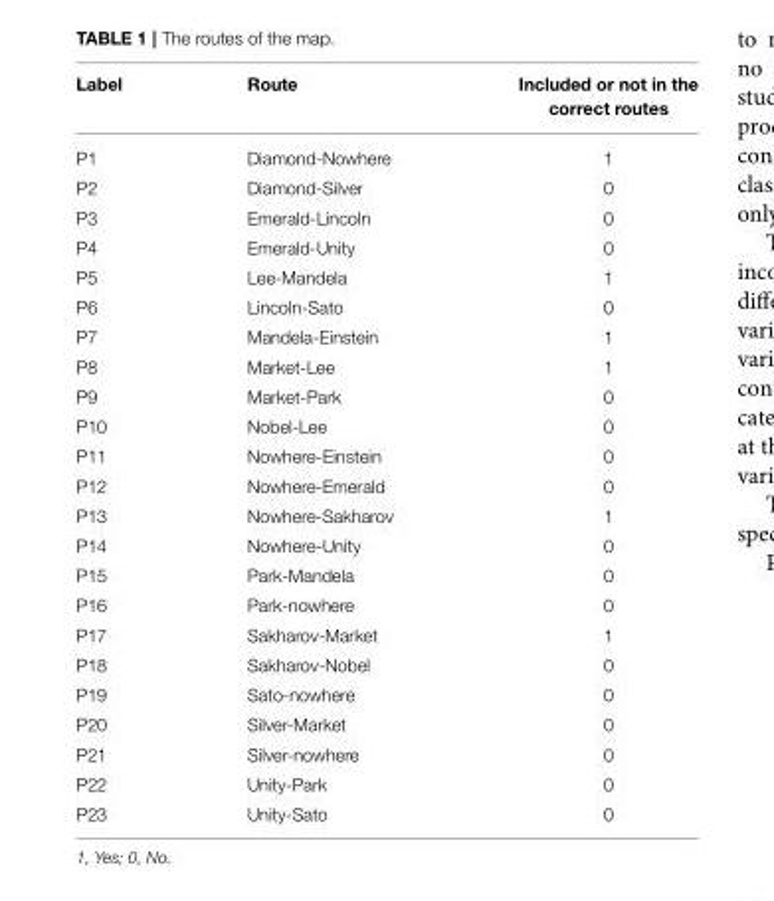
<table><thead><tr><td>Label</td><td>Route</td><td>Included or not in the correct routes</td></tr></thead><tbody><tr><td>P1</td><td>Diamond-Nowhere</td><td>1</td></tr><tr><td>P2</td><td>Diamond-Silver</td><td>0</td></tr><tr><td>P3</td><td>Emerald-Lincoln</td><td>0</td></tr><tr><td>P4</td><td>Emerald-Unity</td><td>0</td></tr><tr><td>P5</td><td>Lee-Mandela</td><td>1</td></tr><tr><td>P6</td><td>Lincoln-Sato</td><td>0</td></tr><tr><td>P7</td><td>Mandela-Einstein</td><td>1</td></tr><tr><td>P8</td><td>Market-Lee</td><td>1</td></tr><tr><td>P9</td><td>Market-Park</td><td>0</td></tr><tr><td>P10</td><td>Nobel-Lee</td><td>0</td></tr><tr><td>P11</td><td>Nowhere-Einstein</td><td>0</td></tr><tr><td>P12</td><td>Nowhere-Emerald</td><td>0</td></tr><tr><td>P13</td><td>Nowhere-Sakharov</td><td>1</td></tr><tr><td>P14</td><td>Nowhere-Unity</td><td>0</td></tr><tr><td>P15</td><td>Park-Mandela</td><td>0</td></tr><tr><td>P16</td><td>Park-nowhere</td><td>0</td></tr><tr><td>P17</td><td>Sakharov-Market</td><td>1</td></tr><tr><td>P18</td><td>Sakharov-Nobel</td><td>0</td></tr><tr><td>P19</td><td>Sato-nowhere</td><td>0</td></tr><tr><td>P20</td><td>Silver-Market</td><td>0</td></tr><tr><td>P21</td><td>Silver-nowhere</td><td>0</td></tr><tr><td>P22</td><td>Unity-Park</td><td>0</td></tr><tr><td>P23</td><td>Unity-Sato</td><td>0</td></tr></tbody></table>